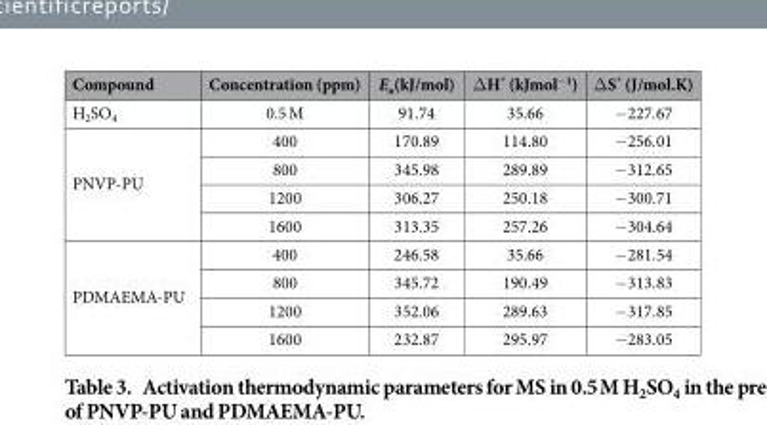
<table><thead><tr><td>Compound</td><td>Concentration (ppm)</td><td>E<sub>a</sub>(kJ/mol)</td><td>Δ H* (kJmol<sup>−1</sup>)</td><td>Δ S* (J/mol.K)</td></tr></thead><tbody><tr><td>H<sub>2</sub>SO<sub>4</sub></td><td>0.5 M</td><td>91.74</td><td>35.66</td><td>− 227.67</td></tr><tr><td rowspan="4">PNVP-PU</td><td>400</td><td>170.89</td><td>114.80</td><td>− 256.01</td></tr><tr><td>800</td><td>345.98</td><td>289.89</td><td>− 312.65</td></tr><tr><td>1200</td><td>306.27</td><td>250.18</td><td>− 300.71</td></tr><tr><td>1600</td><td>313.35</td><td>257.26</td><td>− 304.64</td></tr><tr><td rowspan="4">PDMAEMA-PU</td><td>400</td><td>246.58</td><td>35.66</td><td>− 281.54</td></tr><tr><td>800</td><td>345.72</td><td>190.49</td><td>− 313.83</td></tr><tr><td>1200</td><td>352.06</td><td>289.63</td><td>− 317.85</td></tr><tr><td>1600</td><td>232.87</td><td>295.97</td><td>− 283.05</td></tr></tbody></table>